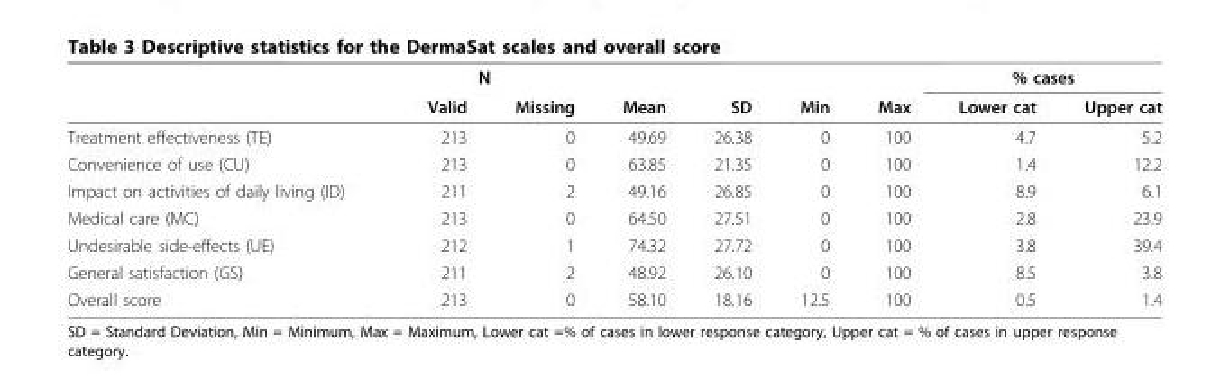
<table><thead><tr><td rowspan="2"></td><td colspan="2">N</td><td rowspan="2">Mean</td><td rowspan="2">SD</td><td rowspan="2">Min</td><td rowspan="2">Max</td><td colspan="2">% cases</td></tr><tr><td>Valid</td><td>Missing</td><td>Lower cat</td><td>Upper cat</td></tr></thead><tbody><tr><td>Treatment effectiveness (TE)</td><td>213</td><td>0</td><td>49.69</td><td>26.38</td><td>0</td><td>100</td><td>4.7</td><td>5.2</td></tr><tr><td>Convenience of use (CU)</td><td>213</td><td>0</td><td>63.85</td><td>21.35</td><td>0</td><td>100</td><td>1.4</td><td>12.2</td></tr><tr><td>Impact on activities of daily living (ID)</td><td>211</td><td>2</td><td>49.16</td><td>26.85</td><td>0</td><td>100</td><td>8.9</td><td>6.1</td></tr><tr><td>Medical care (MC)</td><td>213</td><td>0</td><td>64.50</td><td>27.51</td><td>0</td><td>100</td><td>2.8</td><td>23.9</td></tr><tr><td>Undesirable side-effects (UE)</td><td>212</td><td>1</td><td>74.32</td><td>27.72</td><td>0</td><td>100</td><td>3.8</td><td>39.4</td></tr><tr><td>General satisfaction (GS)</td><td>211</td><td>2</td><td>48.92</td><td>26.10</td><td>0</td><td>100</td><td>8.5</td><td>3.8</td></tr><tr><td>Overall score</td><td>213</td><td>0</td><td>58.10</td><td>18.16</td><td>12.5</td><td>100</td><td>0.5</td><td>1.4</td></tr></tbody></table>